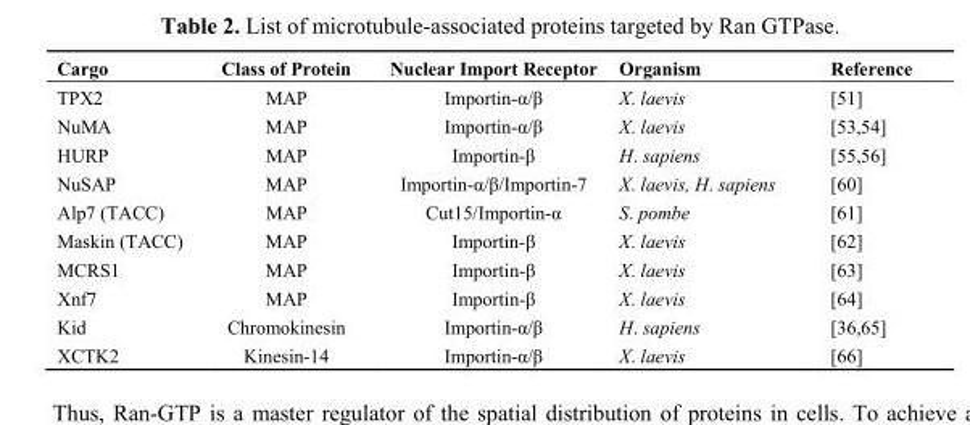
<table><thead><tr><td>Cargo</td><td>Class of Protein</td><td>Nuclear Import Receptor</td><td>Organism</td><td>Reference</td></tr></thead><tbody><tr><td>TPX2</td><td>MAP</td><td>Importin-α/β</td><td>X. laevis</td><td>[51]</td></tr><tr><td>NuMA</td><td>MAP</td><td>Importin-α/β</td><td>X. laevis</td><td>[53,54]</td></tr><tr><td>HURP</td><td>MAP</td><td>Importin-β</td><td>H. sapiens</td><td>[55,56]</td></tr><tr><td>NuSAP</td><td>MAP</td><td>Importin-α/β/Importin-7</td><td>X. laevis, H. sapiens</td><td>[60]</td></tr><tr><td>Alp7 (TACC)</td><td>MAP</td><td>Cut15/Importin-α</td><td>S. pombe</td><td>[61]</td></tr><tr><td>Maskin (TACC)</td><td>MAP</td><td>Importin-β</td><td>X. laevis</td><td>[62]</td></tr><tr><td>MCRS1</td><td>MAP</td><td>Importin-β</td><td>X. laevis</td><td>[63]</td></tr><tr><td>Xnf7</td><td>MAP</td><td>Importin-β</td><td>X. laevis</td><td>[64]</td></tr><tr><td>Kid</td><td>Chromokinesin</td><td>Importin-α/β</td><td>H. sapiens</td><td>[36,65]</td></tr><tr><td>XCTK2</td><td>Kinesin-14</td><td>Importin-α/β</td><td>X. laevis</td><td>[66]</td></tr></tbody></table>